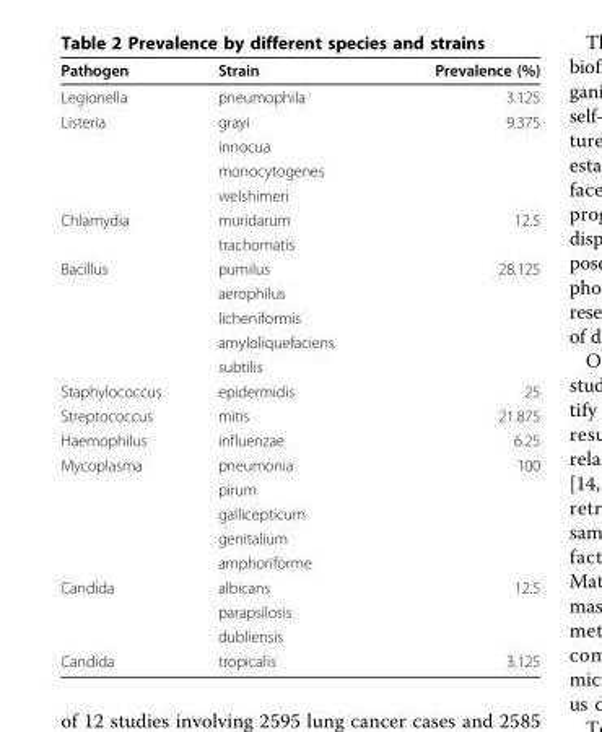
<table><thead><tr><td>Pathogen</td><td>Strain</td><td>Prevalence (%)</td></tr></thead><tbody><tr><td>Legionella</td><td>pneumophila</td><td>3.125</td></tr><tr><td rowspan="4">Listeria</td><td>grayi</td><td>9.375</td></tr><tr><td>innocua</td><td></td></tr><tr><td>monocytogenes</td><td></td></tr><tr><td>welshimeri</td><td></td></tr><tr><td rowspan="2">Chlamydia</td><td>muridarum</td><td>12.5</td></tr><tr><td>trachomatis</td><td></td></tr><tr><td rowspan="5">Bacillus</td><td>pumilus</td><td>28.125</td></tr><tr><td>aerophilus</td><td></td></tr><tr><td>licheniformis</td><td></td></tr><tr><td>amyloliquefaciens</td><td></td></tr><tr><td>subtilis</td><td></td></tr><tr><td>Staphylococcus</td><td>epidermidis</td><td>25</td></tr><tr><td>Streptococcus</td><td>mitis</td><td>21.875</td></tr><tr><td>Haemophilus</td><td>influenzae</td><td>6.25</td></tr><tr><td rowspan="5">Mycoplasma</td><td>pneumonia</td><td>100</td></tr><tr><td>pirum</td><td></td></tr><tr><td>gallicepticum</td><td></td></tr><tr><td>genitalium</td><td></td></tr><tr><td>amphoriforme</td><td></td></tr><tr><td rowspan="3">Candida</td><td>albicans</td><td>12.5</td></tr><tr><td>parapsilosis</td><td></td></tr><tr><td>dubliensis</td><td></td></tr><tr><td>Candida</td><td>tropicalis</td><td>3.125</td></tr></tbody></table>